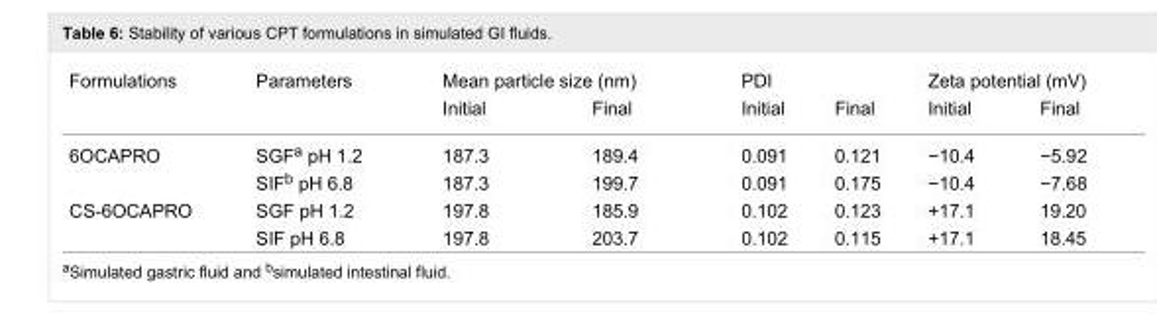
<table><tbody><tr><td rowspan="2">Formulations</td><td rowspan="2">Parameters</td><td colspan="2">Mean particle size (nm)</td><td colspan="2">PDI</td><td colspan="2">Zeta potential (mV)</td></tr><tr><td>Initial</td><td>Final</td><td>Initial</td><td>Final</td><td>Initial</td><td>Final</td></tr><tr><td rowspan="2">6OCAPRO</td><td>SGF<sup>a</sup> pH 1.2</td><td>187.3</td><td>189.4</td><td>0.091</td><td>0.121</td><td>−10.4</td><td>−5.92</td></tr><tr><td>SIF<sup>b</sup> pH 6.8</td><td>187.3</td><td>199.7</td><td>0.091</td><td>0.175</td><td>−10.4</td><td>−7.68</td></tr><tr><td rowspan="2">CS-6OCAPRO</td><td>SGF pH 1.2</td><td>197.8</td><td>185.9</td><td>0.102</td><td>0.123</td><td>+17.1</td><td>19.20</td></tr><tr><td>SIF pH 6.8</td><td>197.8</td><td>203.7</td><td>0.102</td><td>0.115</td><td>+17.1</td><td>18.45</td></tr></tbody></table>